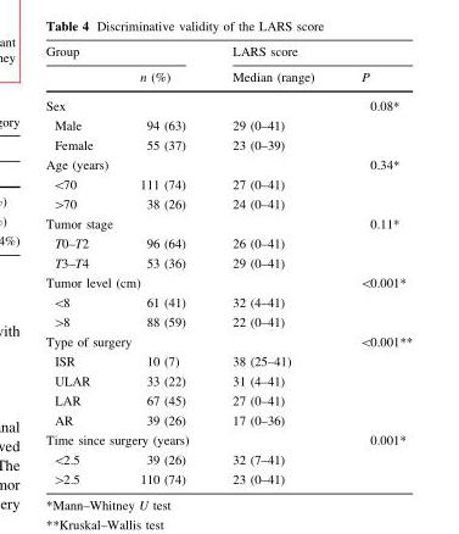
<table><thead><tr><td colspan="2">Group</td><td colspan="2">LARS score</td></tr><tr><td></td><td>n (%)</td><td>Median (range)</td><td>P</td></tr></thead><tbody><tr><td colspan="3">Sex</td><td>0.08*</td></tr><tr><td>Male</td><td>94 (63)</td><td>29 (0–41)</td><td></td></tr><tr><td>Female</td><td>55 (37)</td><td>23 (0–39)</td><td></td></tr><tr><td colspan="3">Age (years)</td><td>0.34*</td></tr><tr><td>&lt;70</td><td>111 (74)</td><td>27 (0–41)</td><td></td></tr><tr><td>&gt;70</td><td>38 (26)</td><td>24 (0–41)</td><td></td></tr><tr><td colspan="3">Tumor stage</td><td>0.11*</td></tr><tr><td>T0–T2</td><td>96 (64)</td><td>26 (0–41)</td><td></td></tr><tr><td>T3–T4</td><td>53 (36)</td><td>29 (0–41)</td><td></td></tr><tr><td colspan="3">Tumor level (cm)</td><td>&lt;0.001*</td></tr><tr><td>&lt;8</td><td>61 (41)</td><td>32 (4–41)</td><td></td></tr><tr><td>&gt;8</td><td>88 (59)</td><td>22 (0–41)</td><td></td></tr><tr><td colspan="3">Type of surgery</td><td>&lt;0.001**</td></tr><tr><td>ISR</td><td>10 (7)</td><td>38 (25–41)</td><td></td></tr><tr><td>ULAR</td><td>33 (22)</td><td>31 (4–41)</td><td></td></tr><tr><td>LAR</td><td>67 (45)</td><td>27 (0–41)</td><td></td></tr><tr><td>AR</td><td>39 (26)</td><td>17 (0–36)</td><td></td></tr><tr><td colspan="3">Time since surgery (years)</td><td>0.001*</td></tr><tr><td>&lt;2.5</td><td>39 (26)</td><td>32 (7–41)</td><td></td></tr><tr><td>&gt;2.5</td><td>110 (74)</td><td>23 (0–41)</td><td></td></tr></tbody></table>